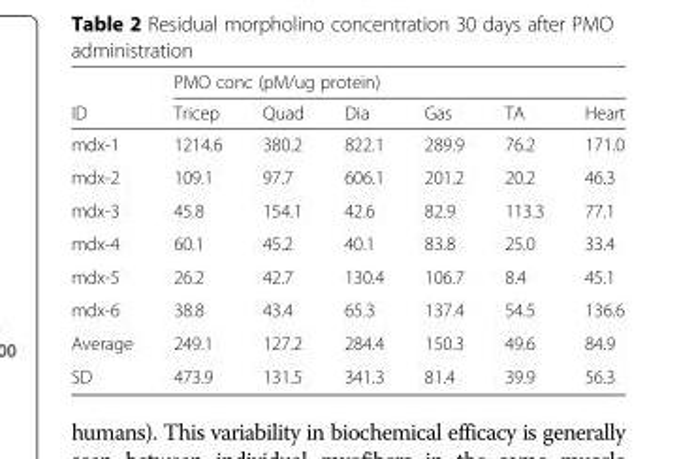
<table><thead><tr><td rowspan="2">ID</td><td colspan="6">PMO conc (pM/ug protein)</td></tr><tr><td>Tricep</td><td>Quad</td><td>Dia</td><td>Gas</td><td>TA</td><td>Heart</td></tr></thead><tbody><tr><td>mdx-1</td><td>1214.6</td><td>380.2</td><td>822.1</td><td>289.9</td><td>76.2</td><td>171.0</td></tr><tr><td>mdx-2</td><td>109.1</td><td>97.7</td><td>606.1</td><td>201.2</td><td>20.2</td><td>46.3</td></tr><tr><td>mdx-3</td><td>45.8</td><td>154.1</td><td>42.6</td><td>82.9</td><td>113.3</td><td>77.1</td></tr><tr><td>mdx-4</td><td>60.1</td><td>45.2</td><td>40.1</td><td>83.8</td><td>25.0</td><td>33.4</td></tr><tr><td>mdx-5</td><td>26.2</td><td>42.7</td><td>130.4</td><td>106.7</td><td>8.4</td><td>45.1</td></tr><tr><td>mdx-6</td><td>38.8</td><td>43.4</td><td>65.3</td><td>137.4</td><td>54.5</td><td>136.6</td></tr><tr><td>Average</td><td>249.1</td><td>127.2</td><td>284.4</td><td>150.3</td><td>49.6</td><td>84.9</td></tr><tr><td>SD</td><td>473.9</td><td>131.5</td><td>341.3</td><td>81.4</td><td>39.9</td><td>56.3</td></tr></tbody></table>